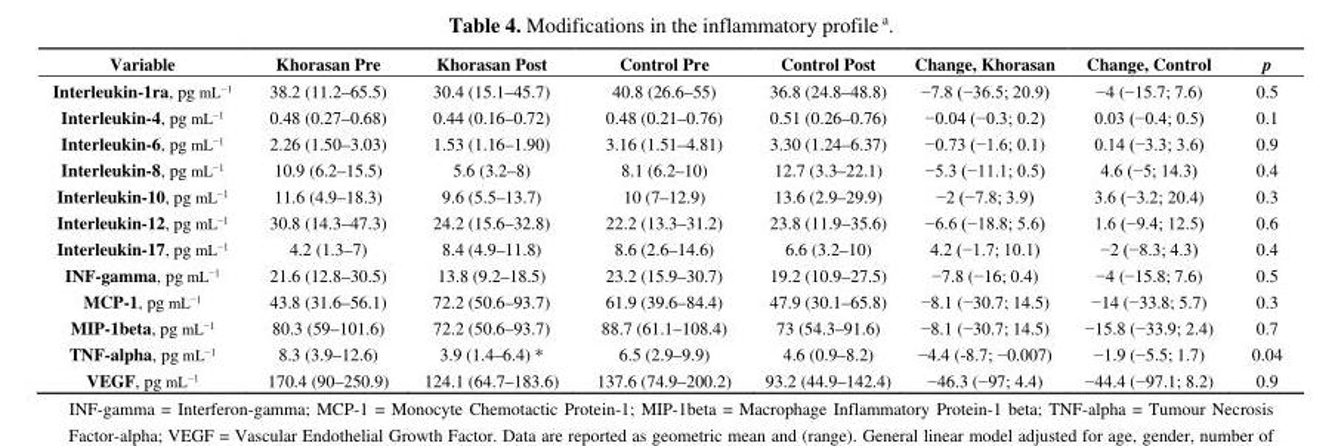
<table><thead><tr><td>Variable</td><td>Khorasan Pre</td><td>Khorasan Post</td><td>Control Pre</td><td>Control Post</td><td>Change, Khorasan</td><td>Change, Control</td><td>p</td></tr></thead><tbody><tr><td>Interleukin-1ra, pg mL<sup>−1</sup></td><td>38.2 (11.2–65.5)</td><td>30.4 (15.1–45.7)</td><td>40.8 (26.6–55)</td><td>36.8 (24.8–48.8)</td><td>−7.8 (−36.5; 20.9)</td><td>−4 (−15.7; 7.6)</td><td>0.5</td></tr><tr><td>Interleukin-4, pg mL<sup>−1</sup></td><td>0.48 (0.27–0.68)</td><td>0.44 (0.16–0.72)</td><td>0.48 (0.21–0.76)</td><td>0.51 (0.26–0.76)</td><td>−0.04 (−0.3; 0.2)</td><td>0.03 (−0.4; 0.5)</td><td>0.1</td></tr><tr><td>Interleukin-6, pg mL<sup>−1</sup></td><td>2.26 (1.50–3.03)</td><td>1.53 (1.16–1.90)</td><td>3.16 (1.51–4.81)</td><td>3.30 (1.24–6.37)</td><td>−0.73 (−1.6; 0.1)</td><td>0.14 (−3.3; 3.6)</td><td>0.9</td></tr><tr><td>Interleukin-8, pg mL<sup>−1</sup></td><td>10.9 (6.2–15.5)</td><td>5.6 (3.2–8)</td><td>8.1 (6.2–10)</td><td>12.7 (3.3–22.1)</td><td>−5.3 (−11.1; 0.5)</td><td>4.6 (−5; 14.3)</td><td>0.4</td></tr><tr><td>Interleukin-10, pg mL<sup>−1</sup></td><td>11.6 (4.9–18.3)</td><td>9.6 (5.5–13.7)</td><td>10 (7–12.9)</td><td>13.6 (2.9–29.9)</td><td>−2 (−7.8; 3.9)</td><td>3.6 (−3.2; 20.4)</td><td>0.3</td></tr><tr><td>Interleukin-12, pg mL<sup>−1</sup></td><td>30.8 (14.3–47.3)</td><td>24.2 (15.6–32.8)</td><td>22.2 (13.3–31.2)</td><td>23.8 (11.9–35.6)</td><td>−6.6 (−18.8; 5.6)</td><td>1.6 (−9.4; 12.5)</td><td>0.6</td></tr><tr><td>Interleukin-17, pg mL<sup>−1</sup></td><td>4.2 (1.3–7)</td><td>8.4 (4.9–11.8)</td><td>8.6 (2.6–14.6)</td><td>6.6 (3.2–10)</td><td>4.2 (−1.7; 10.1)</td><td>−2 (−8.3; 4.3)</td><td>0.4</td></tr><tr><td>INF-gamma, pg mL<sup>−1</sup></td><td>21.6 (12.8–30.5)</td><td>13.8 (9.2–18.5)</td><td>23.2 (15.9–30.7)</td><td>19.2 (10.9–27.5)</td><td>−7.8 (−16; 0.4)</td><td>−4 (−15.8; 7.6)</td><td>0.5</td></tr><tr><td>MCP-1, pg mL<sup>−1</sup></td><td>43.8 (31.6–56.1)</td><td>72.2 (50.6–93.7)</td><td>61.9 (39.6–84.4)</td><td>47.9 (30.1–65.8)</td><td>−8.1 (−30.7; 14.5)</td><td>−14 (−33.8; 5.7)</td><td>0.3</td></tr><tr><td>MIP-1beta, pg mL<sup>−1</sup></td><td>80.3 (59–101.6)</td><td>72.2 (50.6–93.7)</td><td>88.7 (61.1–108.4)</td><td>73 (54.3–91.6)</td><td>−8.1 (−30.7; 14.5)</td><td>−15.8 (−33.9; 2.4)</td><td>0.7</td></tr><tr><td>TNF-alpha, pg mL<sup>−1</sup></td><td>8.3 (3.9–12.6)</td><td>3.9 (1.4–6.4) *</td><td>6.5 (2.9–9.9)</td><td>4.6 (0.9–8.2)</td><td>−4.4 (-8.7; −0.007)</td><td>−1.9 (−5.5; 1.7)</td><td>0.04</td></tr><tr><td>VEGF, pg mL<sup>−1</sup></td><td>170.4 (90–250.9)</td><td>124.1 (64.7–183.6)</td><td>137.6 (74.9–200.2)</td><td>93.2 (44.9–142.4)</td><td>−46.3 (−97; 4.4)</td><td>−44.4 (−97.1; 8.2)</td><td>0.9</td></tr></tbody></table>